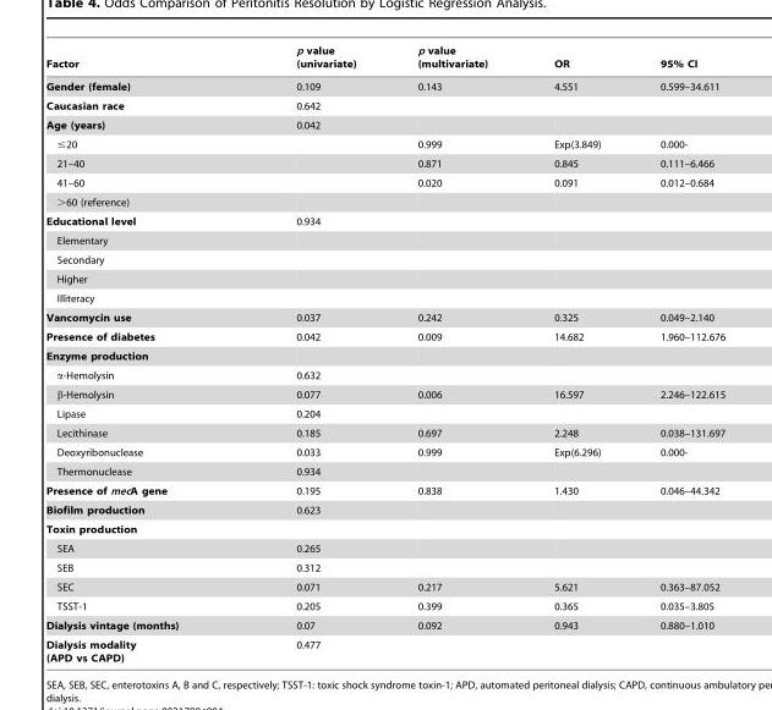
<table><thead><tr><td>Factor</td><td>p value (univariate)</td><td>p value (multivariate)</td><td>OR</td><td>95% CI</td></tr></thead><tbody><tr><td>Gender (female)</td><td>0.109</td><td>0.143</td><td>4.551</td><td>0.599–34.611</td></tr><tr><td>Caucasian race</td><td>0.642</td><td></td><td></td><td></td></tr><tr><td>Age (years)</td><td>0.042</td><td></td><td></td><td></td></tr><tr><td>≤20</td><td></td><td>0.999</td><td>Exp(3.849)</td><td>0.000-</td></tr><tr><td>21–40</td><td></td><td>0.871</td><td>0.845</td><td>0.111–6.466</td></tr><tr><td>41–60</td><td></td><td>0.020</td><td>0.091</td><td>0.012–0.684</td></tr><tr><td colspan="5">&gt;60 (reference)</td></tr><tr><td>Educational level</td><td>0.934</td><td></td><td></td><td></td></tr><tr><td colspan="5">Elementary</td></tr><tr><td colspan="5">Secondary</td></tr><tr><td colspan="5">Higher</td></tr><tr><td colspan="5">Illiteracy</td></tr><tr><td>Vancomycin use</td><td>0.037</td><td>0.242</td><td>0.325</td><td>0.049–2.140</td></tr><tr><td>Presence of diabetes</td><td>0.042</td><td>0.009</td><td>14.682</td><td>1.960–112.676</td></tr><tr><td colspan="5">Enzyme production</td></tr><tr><td>α-Hemolysin</td><td>0.632</td><td></td><td></td><td></td></tr><tr><td>β-Hemolysin</td><td>0.077</td><td>0.006</td><td>16.597</td><td>2.246–122.615</td></tr><tr><td>Lipase</td><td>0.204</td><td></td><td></td><td></td></tr><tr><td>Lecithinase</td><td>0.185</td><td>0.697</td><td>2.248</td><td>0.038–131.697</td></tr><tr><td>Deoxyribonuclease</td><td>0.033</td><td>0.999</td><td>Exp(6.296)</td><td>0.000-</td></tr><tr><td>Thermonuclease</td><td>0.934</td><td></td><td></td><td></td></tr><tr><td>Presence of mecA gene</td><td>0.195</td><td>0.838</td><td>1.430</td><td>0.046–44.342</td></tr><tr><td>Biofilm production</td><td>0.623</td><td></td><td></td><td></td></tr><tr><td colspan="5">Toxin production</td></tr><tr><td>SEA</td><td>0.265</td><td></td><td></td><td></td></tr><tr><td>SEB</td><td>0.312</td><td></td><td></td><td></td></tr><tr><td>SEC</td><td>0.071</td><td>0.217</td><td>5.621</td><td>0.363–87.052</td></tr><tr><td>TSST-1</td><td>0.205</td><td>0.399</td><td>0.365</td><td>0.035–3.805</td></tr><tr><td>Dialysis vintage (months)</td><td>0.07</td><td>0.092</td><td>0.943</td><td>0.880–1.010</td></tr><tr><td>Dialysis modality (APD vs CAPD)</td><td>0.477</td><td></td><td></td><td></td></tr></tbody></table>